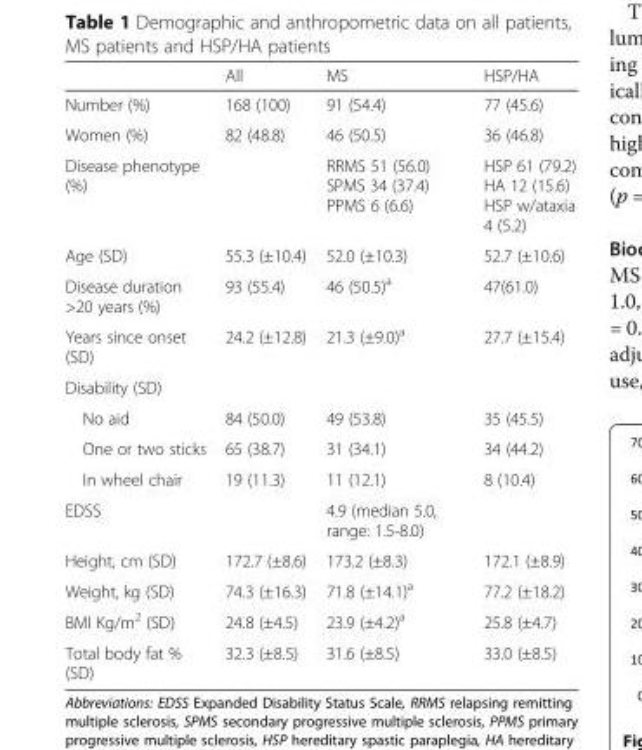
<table><thead><tr><td></td><td>All</td><td>MS</td><td>HSP/HA</td></tr></thead><tbody><tr><td>Number (%)</td><td>168 (100)</td><td>91 (54.4)</td><td>77 (45.6)</td></tr><tr><td>Women (%)</td><td>82 (48.8)</td><td>46 (50.5)</td><td>36 (46.8)</td></tr><tr><td>Disease phenotype (%)</td><td></td><td>RRMS 51 (56.0) SPMS 34 (37.4) PPMS 6 (6.6)</td><td>HSP 61 (79.2) HA 12 (15.6) HSP w/ataxia 4 (5.2)</td></tr><tr><td>Age (SD)</td><td>55.3 (±10.4)</td><td>52.0 (±10.3)</td><td>52.7 (±10.6)</td></tr><tr><td>Disease duration &gt;20 years (%)</td><td>93 (55.4)</td><td>46 (50.5)<sup>a</sup></td><td>47(61.0)</td></tr><tr><td>Years since onset (SD)</td><td>24.2 (±12.8)</td><td>21.3 (±9.0)<sup>a</sup></td><td>27.7 (±15.4)</td></tr><tr><td colspan="4">Disability (SD)</td></tr><tr><td>No aid</td><td>84 (50.0)</td><td>49 (53.8)</td><td>35 (45.5)</td></tr><tr><td>One or two sticks</td><td>65 (38.7)</td><td>31 (34.1)</td><td>34 (44.2)</td></tr><tr><td>In wheel chair</td><td>19 (11.3)</td><td>11 (12.1)</td><td>8 (10.4)</td></tr><tr><td>EDSS</td><td></td><td>4.9 (median 5.0, range: 1.5-8.0)</td><td></td></tr><tr><td>Height, cm (SD)</td><td>172.7 (±8.6)</td><td>173.2 (±8.3)</td><td>172.1 (±8.9)</td></tr><tr><td>Weight, kg (SD)</td><td>74.3 (±16.3)</td><td>71.8 (±14.1)<sup>a</sup></td><td>77.2 (±18.2)</td></tr><tr><td>BMI Kg/m<sup>2</sup> (SD)</td><td>24.8 (±4.5)</td><td>23.9 (±4.2)<sup>a</sup></td><td>25.8 (±4.7)</td></tr><tr><td>Total body fat % (SD)</td><td>32.3 (±8.5)</td><td>31.6 (±8.5)</td><td>33.0 (±8.5)</td></tr></tbody></table>